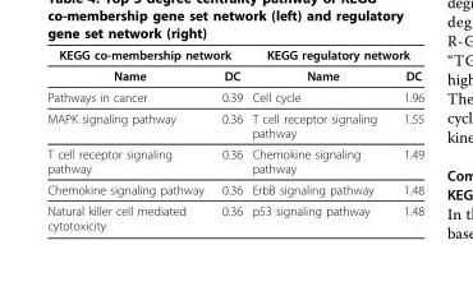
<table><thead><tr><td colspan="2">KEGG co-membership network</td><td colspan="2">KEGG regulatory network</td></tr><tr><td>Name</td><td>DC</td><td>Name</td><td>DC</td></tr></thead><tbody><tr><td>Pathways in cancer</td><td>0.39</td><td>Cell cycle</td><td>1.96</td></tr><tr><td>MAPK signaling pathway</td><td>0.36</td><td>T cell receptor signaling pathway</td><td>1.55</td></tr><tr><td>T cell receptor signaling pathway</td><td>0.36</td><td>Chemokine signaling pathway</td><td>1.49</td></tr><tr><td>Chemokine signaling pathway</td><td>0.36</td><td>ErbB signaling pathway</td><td>1.48</td></tr><tr><td>Natural killer cell mediated cytotoxicity</td><td>0.36</td><td>p53 signaling pathway</td><td>1.48</td></tr></tbody></table>